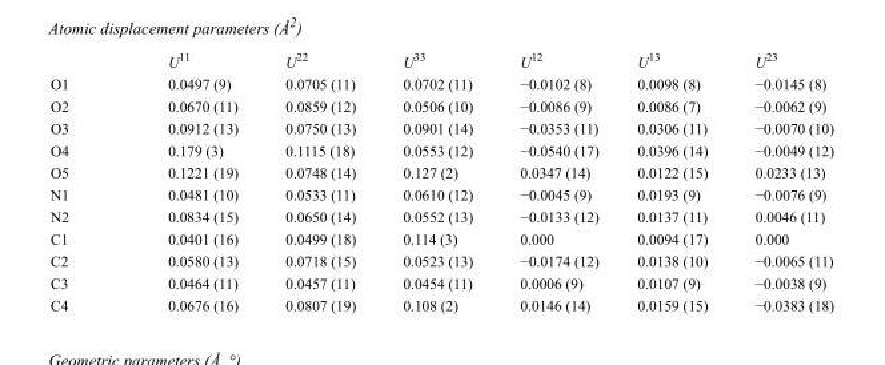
<table><thead><tr><td></td><td>U<sup>11</sup></td><td>U<sup>22</sup></td><td>U<sup>33</sup></td><td>U<sup>12</sup></td><td>U<sup>13</sup></td><td>U<sup>23</sup></td></tr></thead><tbody><tr><td>O1</td><td>0.0497 (9)</td><td>0.0705 (11)</td><td>0.0702 (11)</td><td>−0.0102 (8)</td><td>0.0098 (8)</td><td>−0.0145 (8)</td></tr><tr><td>O2</td><td>0.0670 (11)</td><td>0.0859 (12)</td><td>0.0506 (10)</td><td>−0.0086 (9)</td><td>0.0086 (7)</td><td>−0.0062 (9)</td></tr><tr><td>O3</td><td>0.0912 (13)</td><td>0.0750 (13)</td><td>0.0901 (14)</td><td>−0.0353 (11)</td><td>0.0306 (11)</td><td>−0.0070 (10)</td></tr><tr><td>O4</td><td>0.179 (3)</td><td>0.1115 (18)</td><td>0.0553 (12)</td><td>−0.0540 (17)</td><td>0.0396 (14)</td><td>−0.0049 (12)</td></tr><tr><td>O5</td><td>0.1221 (19)</td><td>0.0748 (14)</td><td>0.127 (2)</td><td>0.0347 (14)</td><td>0.0122 (15)</td><td>0.0233 (13)</td></tr><tr><td>N1</td><td>0.0481 (10)</td><td>0.0533 (11)</td><td>0.0610 (12)</td><td>−0.0045 (9)</td><td>0.0193 (9)</td><td>−0.0076 (9)</td></tr><tr><td>N2</td><td>0.0834 (15)</td><td>0.0650 (14)</td><td>0.0552 (13)</td><td>−0.0133 (12)</td><td>0.0137 (11)</td><td>0.0046 (11)</td></tr><tr><td>C1</td><td>0.0401 (16)</td><td>0.0499 (18)</td><td>0.114 (3)</td><td>0.000</td><td>0.0094 (17)</td><td>0.000</td></tr><tr><td>C2</td><td>0.0580 (13)</td><td>0.0718 (15)</td><td>0.0523 (13)</td><td>−0.0174 (12)</td><td>0.0138 (10)</td><td>−0.0065 (11)</td></tr><tr><td>C3</td><td>0.0464 (11)</td><td>0.0457 (11)</td><td>0.0454 (11)</td><td>0.0006 (9)</td><td>0.0107 (9)</td><td>−0.0038 (9)</td></tr><tr><td>C4</td><td>0.0676 (16)</td><td>0.0807 (19)</td><td>0.108 (2)</td><td>0.0146 (14)</td><td>0.0159 (15)</td><td>−0.0383 (18)</td></tr></tbody></table>